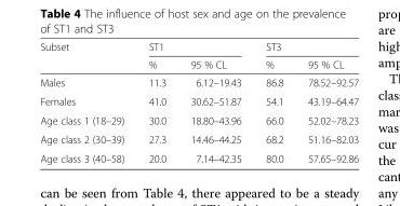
<table><thead><tr><td rowspan="2">Subset</td><td colspan="2">ST1</td><td colspan="2">ST3</td></tr><tr><td>%</td><td>95 % CL</td><td>%</td><td>95 % CL</td></tr></thead><tbody><tr><td>Males</td><td>11.3</td><td>6.12–19.43</td><td>86.8</td><td>78.52–92.57</td></tr><tr><td>Females</td><td>41.0</td><td>30.62–51.87</td><td>54.1</td><td>43.19–64.47</td></tr><tr><td>Age class 1 (18–29)</td><td>30.0</td><td>18.80–43.96</td><td>66.0</td><td>52.02–78.23</td></tr><tr><td>Age class 2 (30–39)</td><td>27.3</td><td>14.46–44.25</td><td>68.2</td><td>51.16–82.03</td></tr><tr><td>Age class 3 (40–58)</td><td>20.0</td><td>7.14–42.35</td><td>80.0</td><td>57.65–92.86</td></tr></tbody></table>